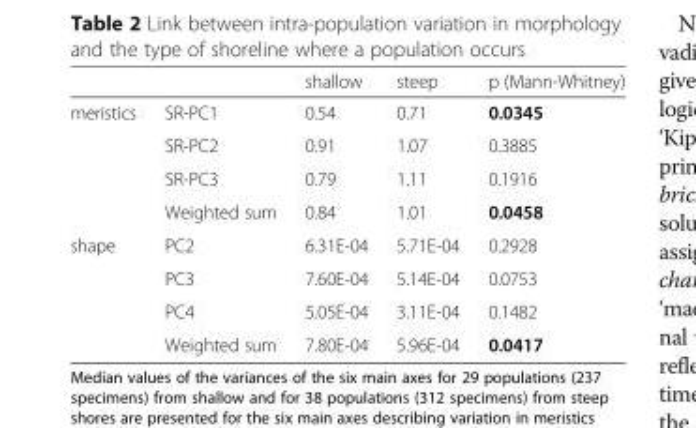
<table><thead><tr><td></td><td></td><td>shallow</td><td>steep</td><td>p (Mann-Whitney)</td></tr></thead><tbody><tr><td rowspan="4">meristics</td><td>SR-PC1</td><td>0.54</td><td>0.71</td><td>0.0345</td></tr><tr><td>SR-PC2</td><td>0.91</td><td>1.07</td><td>0.3885</td></tr><tr><td>SR-PC3</td><td>0.79</td><td>1.11</td><td>0.1916</td></tr><tr><td>Weighted sum</td><td>0.84</td><td>1.01</td><td>0.0458</td></tr><tr><td rowspan="4">shape</td><td>PC2</td><td>6.31E-04</td><td>5.71E-04</td><td>0.2928</td></tr><tr><td>PC3</td><td>7.60E-04</td><td>5.14E-04</td><td>0.0753</td></tr><tr><td>PC4</td><td>5.05E-04</td><td>3.11E-04</td><td>0.1482</td></tr><tr><td>Weighted sum</td><td>7.80E-04</td><td>5.96E-04</td><td>0.0417</td></tr></tbody></table>